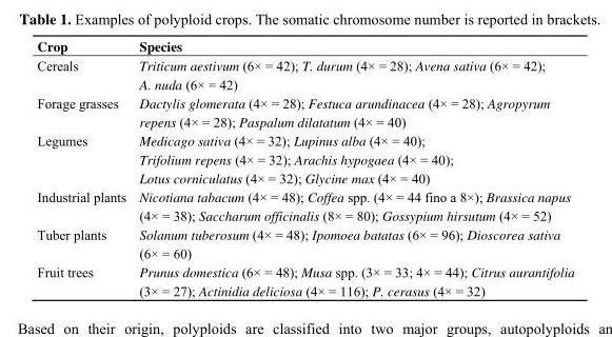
<table><thead><tr><td>Crop</td><td>Species</td></tr></thead><tbody><tr><td>Cereals</td><td>Triticum aestivum (6× = 42); T. durum (4× = 28); Avena sativa (6× = 42); A. nuda (6× = 42)</td></tr><tr><td>Forage grasses</td><td>Dactylis glomerata (4× = 28); Festuca arundinacea (4× = 28); Agropyrum repens (4× = 28); Paspalum dilatatum (4× = 40)</td></tr><tr><td>Legumes</td><td>Medicago sativa (4× = 32); Lupinus alba (4× = 40); Trifolium repens (4× = 32); Arachis hypogaea (4× = 40); Lotus corniculatus (4× = 32); Glycine max (4× = 40)</td></tr><tr><td>Industrial plants</td><td>Nicotiana tabacum (4× = 48); Coffea spp. (4× = 44 fino a 8×); Brassica napus (4× = 38); Saccharum officinalis (8× = 80); Gossypium hirsutum (4× = 52)</td></tr><tr><td>Tuber plants</td><td>Solanum tuberosum (4× = 48); Ipomoea batatas (6× = 96); Dioscorea sativa (6× = 60)</td></tr><tr><td>Fruit trees</td><td>Prunus domestica (6× = 48); Musa spp. (3× = 33; 4× = 44); Citrus aurantifolia (3× = 27); Actinidia deliciosa (4× = 116); P. cerasus (4× = 32)</td></tr></tbody></table>